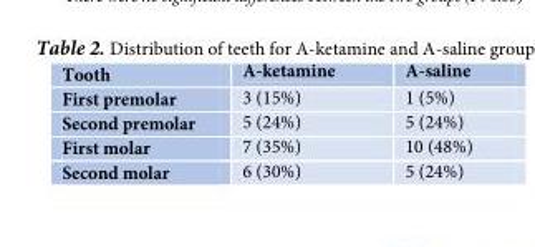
<table><tbody><tr><td>Tooth</td><td>A-ketamine</td><td>A-saline</td></tr><tr><td>First premolar</td><td>3 (15%)</td><td>1 (5%)</td></tr><tr><td>Second premolar</td><td>5 (24%)</td><td>5 (24%)</td></tr><tr><td>First molar</td><td>7 (35%)</td><td>10 (48%)</td></tr><tr><td>Second molar</td><td>6 (30%)</td><td>5 (24%)</td></tr></tbody></table>